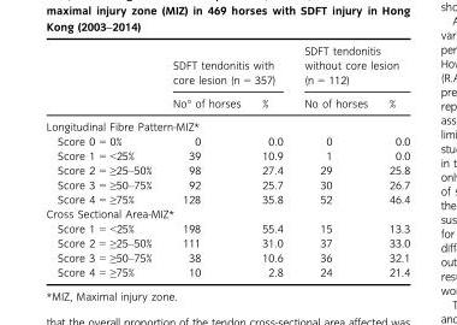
<table><thead><tr><td rowspan="2"></td><td colspan="2">SDFT tendonitis with core lesion (n = 357)</td><td colspan="2">SDFT tendonitis without core lesion (n = 112)</td></tr><tr><td>No° of horses</td><td>%</td><td>No of horses</td><td>%</td></tr></thead><tbody><tr><td colspan="5">Longitudinal Fibre Pattern-MIZ*</td></tr><tr><td>Score 0 = 0%</td><td>0</td><td>0.0</td><td>0</td><td>0.0</td></tr><tr><td>Score 1 = &lt;25%</td><td>39</td><td>10.9</td><td>1</td><td>0.0</td></tr><tr><td>Score 2 = ≥25–50%</td><td>98</td><td>27.4</td><td>29</td><td>25.8</td></tr><tr><td>Score 3 = ≥50–75%</td><td>92</td><td>25.7</td><td>30</td><td>26.7</td></tr><tr><td>Score 4 = ≥75%</td><td>128</td><td>35.8</td><td>52</td><td>46.4</td></tr><tr><td colspan="5">Cross Sectional Area-MIZ*</td></tr><tr><td>Score 1 = &lt;25%</td><td>198</td><td>55.4</td><td>15</td><td>13.3</td></tr><tr><td>Score 2 = ≥25–50%</td><td>111</td><td>31.0</td><td>37</td><td>33.0</td></tr><tr><td>Score 3 = ≥50–75%</td><td>38</td><td>10.6</td><td>36</td><td>32.1</td></tr><tr><td>Score 4 = ≥75%</td><td>10</td><td>2.8</td><td>24</td><td>21.4</td></tr></tbody></table>